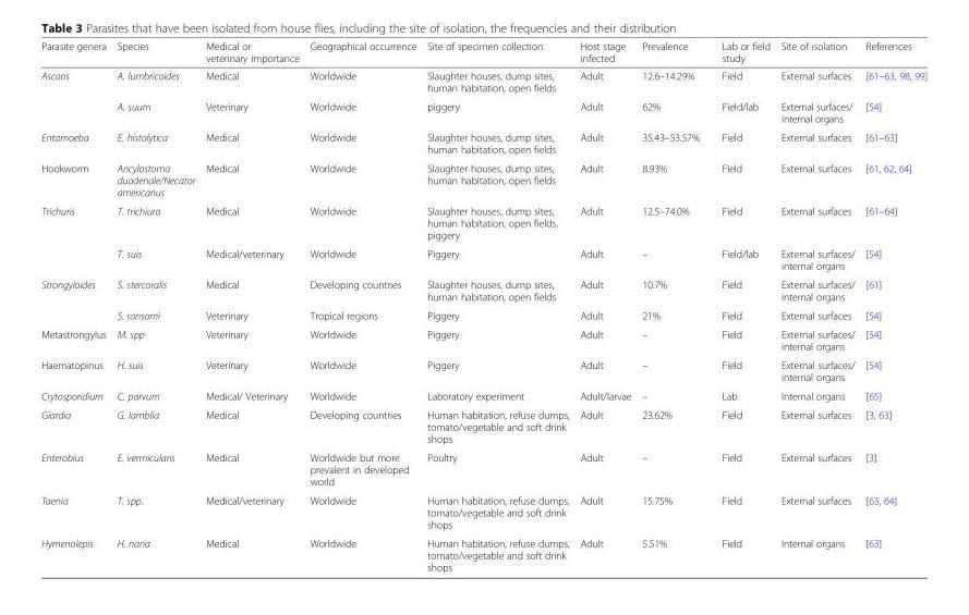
<table><thead><tr><td>Parasite genera</td><td>Species</td><td>Medical or veterinary importance</td><td>Geographical occurrence</td><td>Site of specimen collection</td><td>Host stage infected</td><td>Prevalence</td><td>Lab or field study</td><td>Site of isolation</td><td>References</td></tr></thead><tbody><tr><td rowspan="2">Ascaris</td><td>A. lumbricoides</td><td>Medical</td><td>Worldwide</td><td>Slaughter houses, dump sites, human habitation, open fields</td><td>Adult</td><td>12.6–14.29%</td><td>Field</td><td>External surfaces</td><td>[61–63, 98, 99]</td></tr><tr><td>A. suum</td><td>Veterinary</td><td>Worldwide</td><td>piggery</td><td>Adult</td><td>62%</td><td>Field/lab</td><td>External surfaces/ internal organs</td><td>[54]</td></tr><tr><td>Entamoeba</td><td>E. histolytica</td><td>Medical</td><td>Worldwide</td><td>Slaughter houses, dump sites, human habitation, open fields</td><td>Adult</td><td>35.43–53.57%</td><td>Field</td><td>External surfaces</td><td>[61–63]</td></tr><tr><td>Hookworm</td><td>Ancylostoma duodenale/Necator americanus</td><td>Medical</td><td>Worldwide</td><td>Slaughter houses, dump sites, human habitation, open fields</td><td>Adult</td><td>8.93%</td><td>Field</td><td>External surfaces</td><td>[61, 62, 64]</td></tr><tr><td rowspan="2">Trichuris</td><td>T. trichiura</td><td>Medical</td><td>Worldwide</td><td>Slaughter houses, dump sites, human habitation, open fields, piggery</td><td>Adult</td><td>12.5–74.0%</td><td>Field</td><td>External surfaces</td><td>[61–64]</td></tr><tr><td>T. suis</td><td>Medical/veterinary</td><td>Worldwide</td><td>Piggery</td><td>Adult</td><td>–</td><td>Field/lab</td><td>External surfaces/ internal organs</td><td>[54]</td></tr><tr><td rowspan="2">Strongyloides</td><td>S. stercoralis</td><td>Medical</td><td>Developing countries</td><td>Slaughter houses, dump sites, human habitation, open fields</td><td>Adult</td><td>10.7%</td><td>Field</td><td>External surfaces/ internal organs</td><td>[61]</td></tr><tr><td>S. ransomi</td><td>Veterinary</td><td>Tropical regions</td><td>Piggery</td><td>Adult</td><td>21%</td><td>Field</td><td>External surfaces</td><td>[54]</td></tr><tr><td>Metastrongylus</td><td>M. spp</td><td>Veterinary</td><td>Worldwide</td><td>Piggery</td><td>Adult</td><td>–</td><td>Field</td><td>External surfaces/ internal organs</td><td>[54]</td></tr><tr><td>Haematopinus</td><td>H. suis</td><td>Veterinary</td><td>Worldwide</td><td>Piggery</td><td>Adult</td><td>–</td><td>Field</td><td>External surfaces/ internal organs</td><td>[54]</td></tr><tr><td>Crytosporidium</td><td>C. parvum</td><td>Medical/ Veterinary</td><td>Worldwide</td><td>Laboratory experiment</td><td>Adult/larvae</td><td>–</td><td>Lab</td><td>Internal organs</td><td>[65]</td></tr><tr><td>Giardia</td><td>G. lamblia</td><td>Medical</td><td>Developing countries</td><td>Human habitation, refuse dumps, tomato/vegetable and soft drink shops</td><td>Adult</td><td>23.62%</td><td>Field</td><td>External surfaces</td><td>[3, 63]</td></tr><tr><td>Enterobius</td><td>E. vermicularis</td><td>Medical</td><td>Worldwide but more prevalent in developed world</td><td>Poultry</td><td>Adult</td><td>–</td><td>Field</td><td>External surfaces</td><td>[3]</td></tr><tr><td>Taenia</td><td>T. spp.</td><td>Medical/veterinary</td><td>Worldwide</td><td>Human habitation, refuse dumps, tomato/vegetable and soft drink shops</td><td>Adult</td><td>15.75%</td><td>Field</td><td>External surfaces</td><td>[63, 64]</td></tr><tr><td>Hymenolepis</td><td>H. nana</td><td>Medical</td><td>Worldwide</td><td>Human habitation, refuse dumps, tomato/vegetable and soft drink shops</td><td>Adult</td><td>5.51%</td><td>Field</td><td>Internal organs</td><td>[63]</td></tr></tbody></table>